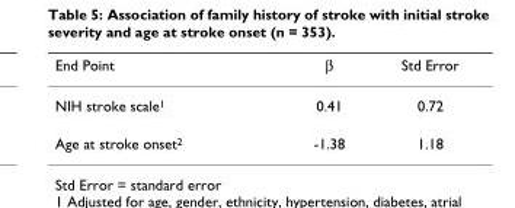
<table><thead><tr><td>End Point</td><td>β</td><td>Std Error</td></tr></thead><tbody><tr><td>NIH stroke scale<sup>1</sup></td><td>0.41</td><td>0.72</td></tr><tr><td>Age at stroke onset<sup>2</sup></td><td>-1.38</td><td>1.18</td></tr></tbody></table>